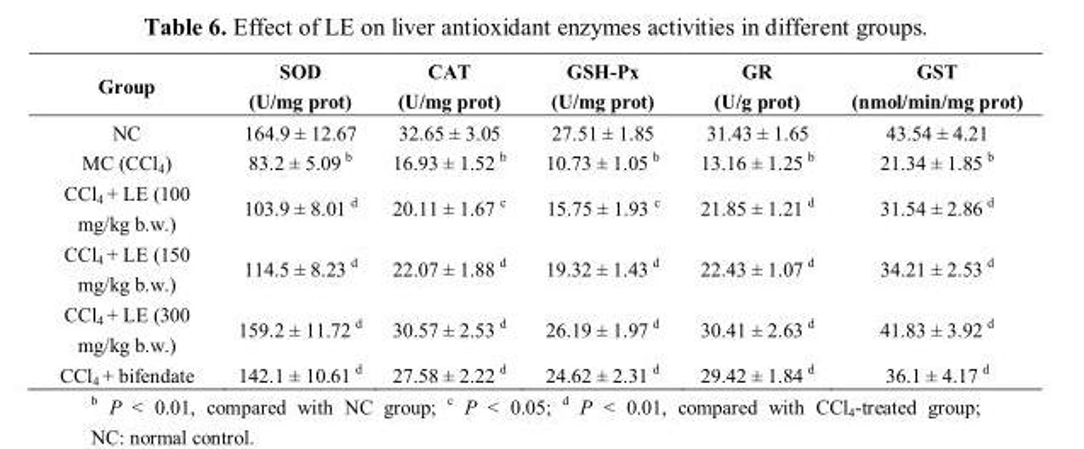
<table><thead><tr><td>Group</td><td>SOD (U/mg prot)</td><td>CAT (U/mg prot)</td><td>GSH-Px (U/mg prot)</td><td>GR (U/g prot)</td><td>GST (nmol/min/mg prot)</td></tr></thead><tbody><tr><td>NC</td><td>164.9 ± 12.67</td><td>32.65 ± 3.05</td><td>27.51 ± 1.85</td><td>31.43 ± 1.65</td><td>43.54 ± 4.21</td></tr><tr><td>MC (CCl<sub>4</sub>)</td><td>83.2 ± 5.09 b</td><td>16.93 ± 1.52 b</td><td>10.73 ± 1.05 b</td><td>13.16 ± 1.25 b</td><td>21.34 ± 1.85 b</td></tr><tr><td>CCl<sub>4</sub> + LE (100 mg/kg b.w.)</td><td>103.9 ± 8.01 d</td><td>20.11 ± 1.67 c</td><td>15.75 ± 1.93 c</td><td>21.85 ± 1.21 d</td><td>31.54 ± 2.86 d</td></tr><tr><td>CCl<sub>4</sub> + LE (150 mg/kg b.w.)</td><td>114.5 ± 8.23 d</td><td>22.07 ± 1.88 d</td><td>19.32 ± 1.43 d</td><td>22.43 ± 1.07 d</td><td>34.21 ± 2.53 d</td></tr><tr><td>CCl<sub>4</sub> + LE (300 mg/kg b.w.)</td><td>159.2 ± 11.72 d</td><td>30.57 ± 2.53 d</td><td>26.19 ± 1.97 d</td><td>30.41 ± 2.63 d</td><td>41.83 ± 3.92 d</td></tr><tr><td>CCl<sub>4</sub> + bifendate</td><td>142.1 ± 10.61 d</td><td>27.58 ± 2.22 d</td><td>24.62 ± 2.31 d</td><td>29.42 ± 1.84 d</td><td>36.1 ± 4.17 d</td></tr></tbody></table>